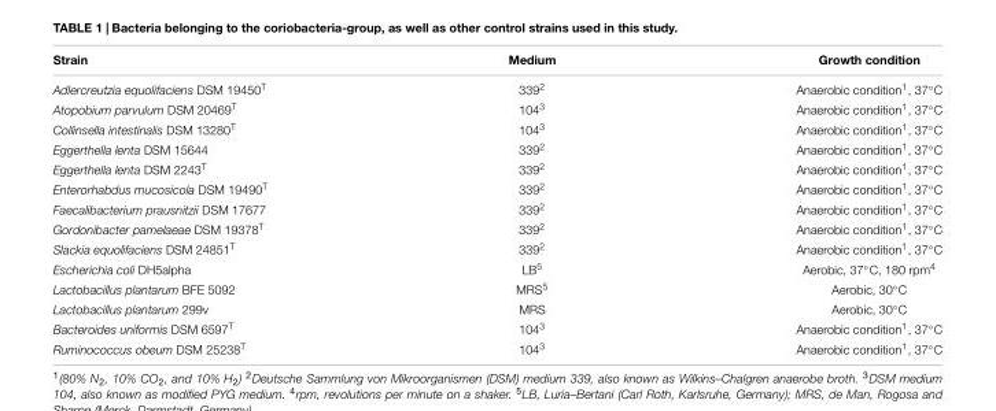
<table><thead><tr><td>Strain</td><td>Medium</td><td>Growth condition</td></tr></thead><tbody><tr><td>Adlercreutzia equolifaciens DSM 19450<sup>T</sup></td><td>339<sup>2</sup></td><td>Anaerobic condition1, 37◦C</td></tr><tr><td>Atopobium parvulum DSM 20469<sup>T</sup></td><td>104<sup>3</sup></td><td>Anaerobic condition1, 37◦C</td></tr><tr><td>Collinsella intestinalis DSM 13280<sup>T</sup></td><td>104<sup>3</sup></td><td>Anaerobic condition1, 37◦C</td></tr><tr><td>Eggerthella lenta DSM 15644</td><td>339<sup>2</sup></td><td>Anaerobic condition1, 37◦C</td></tr><tr><td>Eggerthella lenta DSM 2243<sup>T</sup></td><td>339<sup>2</sup></td><td>Anaerobic condition1, 37◦C</td></tr><tr><td>Enterorhabdus mucosicola DSM 19490<sup>T</sup></td><td>339<sup>2</sup></td><td>Anaerobic condition1, 37◦C</td></tr><tr><td>Faecalibacterium prausnitzii DSM 17677</td><td>339<sup>2</sup></td><td>Anaerobic condition1, 37◦C</td></tr><tr><td>Gordonibacter pamelaeae DSM 19378<sup>T</sup></td><td>339<sup>2</sup></td><td>Anaerobic condition1, 37◦C</td></tr><tr><td>Slackia equolifaciens DSM 24851<sup>T</sup></td><td>339<sup>2</sup></td><td>Anaerobic condition1, 37◦C</td></tr><tr><td>Escherichia coli DH5alpha</td><td>LB<sup>5</sup></td><td>Aerobic, 37◦C, 180 rpm4</td></tr><tr><td>Lactobacillus plantarum BFE 5092</td><td>MRS<sup>5</sup></td><td>Aerobic, 30◦C</td></tr><tr><td>Lactobacillus plantarum 299v</td><td>MRS</td><td>Aerobic, 30◦C</td></tr><tr><td>Bacteroides uniformis DSM 6597<sup>T</sup></td><td>104<sup>3</sup></td><td>Anaerobic condition1, 37◦C</td></tr><tr><td>Ruminococcus obeum DSM 25238<sup>T</sup></td><td>104<sup>3</sup></td><td>Anaerobic condition1, 37◦C</td></tr></tbody></table>